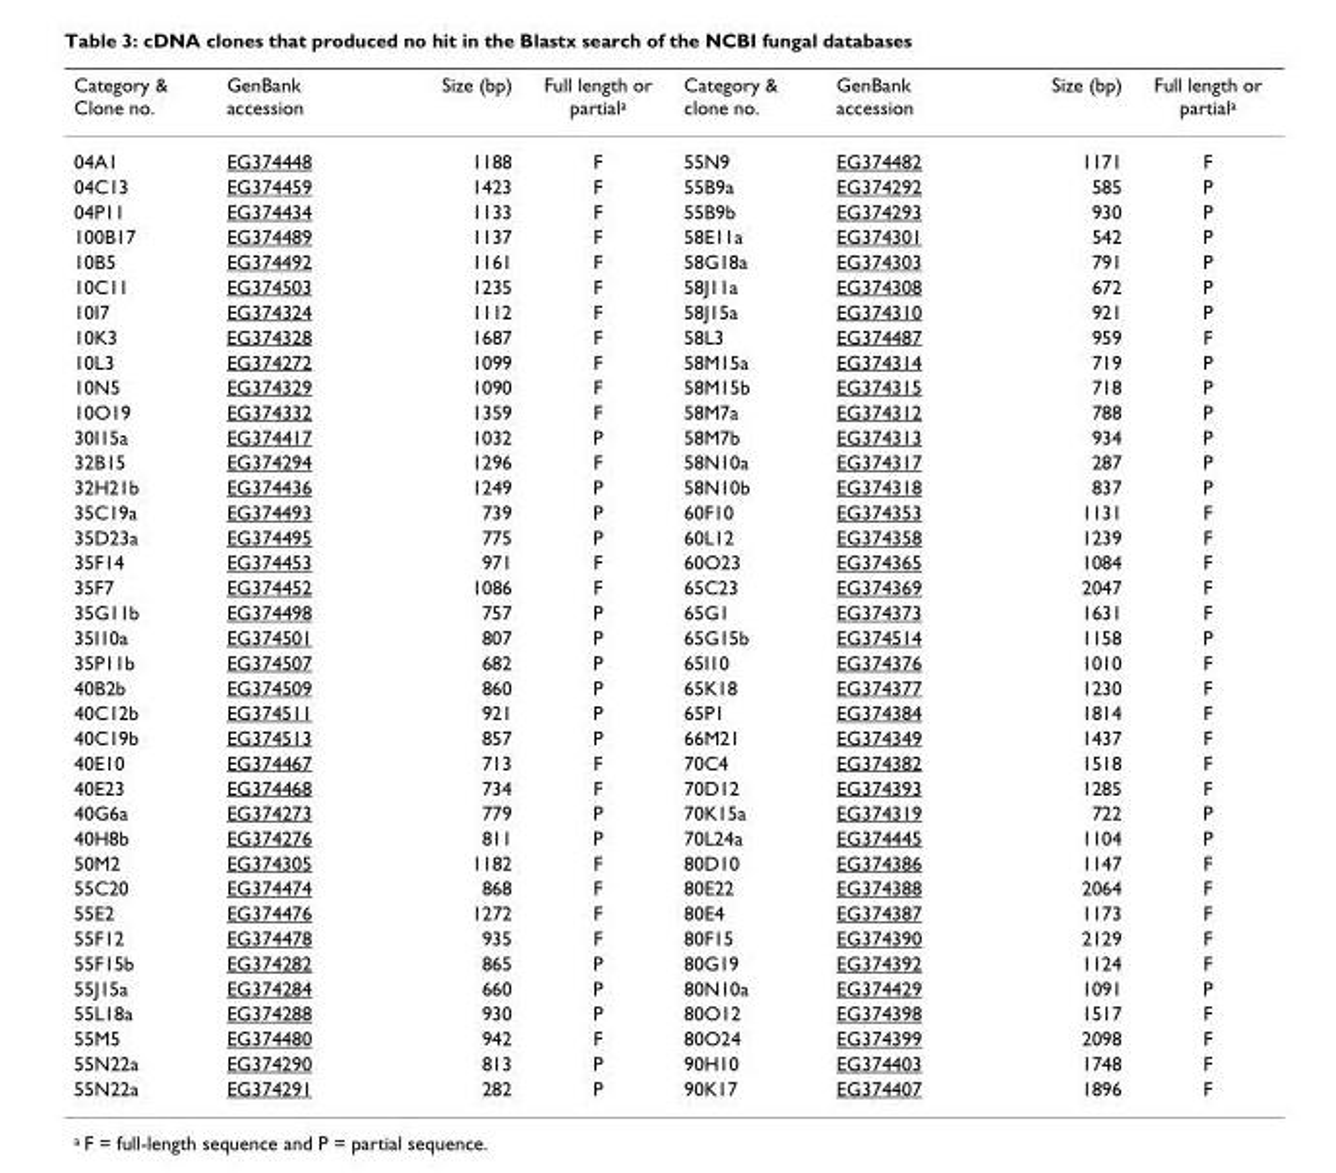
<table><thead><tr><td>Category &amp; Clone no.</td><td>GenBank accession</td><td>Size (bp)</td><td>Full length or partial<sup>a</sup></td><td>Category &amp; clone no.</td><td>GenBank accession</td><td>Size (bp)</td><td>Full length or partial<sup>a</sup></td></tr></thead><tbody><tr><td>04A1</td><td>EG374448</td><td>1188</td><td>F</td><td>55N9</td><td>EG374482</td><td>1171</td><td>F</td></tr><tr><td>04C13</td><td>EG374459</td><td>1423</td><td>F</td><td>55B9a</td><td>EG374292</td><td>585</td><td>P</td></tr><tr><td>04P11</td><td>EG374434</td><td>1133</td><td>F</td><td>55B9b</td><td>EG374293</td><td>930</td><td>P</td></tr><tr><td>100B17</td><td>EG374489</td><td>1137</td><td>F</td><td>58E11a</td><td>EG374301</td><td>542</td><td>P</td></tr><tr><td>10B5</td><td>EG374492</td><td>1161</td><td>F</td><td>58G18a</td><td>EG374303</td><td>791</td><td>P</td></tr><tr><td>10C11</td><td>EG374503</td><td>1235</td><td>F</td><td>58J11a</td><td>EG374308</td><td>672</td><td>P</td></tr><tr><td>10I7</td><td>EG374324</td><td>1112</td><td>F</td><td>58J15a</td><td>EG374310</td><td>921</td><td>P</td></tr><tr><td>10K3</td><td>EG374328</td><td>1687</td><td>F</td><td>58L3</td><td>EG374487</td><td>959</td><td>F</td></tr><tr><td>10L3</td><td>EG374272</td><td>1099</td><td>F</td><td>58M15a</td><td>EG374314</td><td>719</td><td>P</td></tr><tr><td>10N5</td><td>EG374329</td><td>1090</td><td>F</td><td>58M15b</td><td>EG374315</td><td>718</td><td>P</td></tr><tr><td>10O19</td><td>EG374332</td><td>1359</td><td>F</td><td>58M7a</td><td>EG374312</td><td>788</td><td>P</td></tr><tr><td>30I15a</td><td>EG374417</td><td>1032</td><td>P</td><td>58M7b</td><td>EG374313</td><td>934</td><td>P</td></tr><tr><td>32B15</td><td>EG374294</td><td>1296</td><td>F</td><td>58N10a</td><td>EG374317</td><td>287</td><td>P</td></tr><tr><td>32H21b</td><td>EG374436</td><td>1249</td><td>P</td><td>58N10b</td><td>EG374318</td><td>837</td><td>P</td></tr><tr><td>35C19a</td><td>EG374493</td><td>739</td><td>P</td><td>60F10</td><td>EG374353</td><td>1131</td><td>F</td></tr><tr><td>35D23a</td><td>EG374495</td><td>775</td><td>P</td><td>60L12</td><td>EG374358</td><td>1239</td><td>F</td></tr><tr><td>35F14</td><td>EG374453</td><td>971</td><td>F</td><td>60O23</td><td>EG374365</td><td>1084</td><td>F</td></tr><tr><td>35F7</td><td>EG374452</td><td>1086</td><td>F</td><td>65C23</td><td>EG374369</td><td>2047</td><td>F</td></tr><tr><td>35G11b</td><td>EG374498</td><td>757</td><td>P</td><td>65G1</td><td>EG374373</td><td>1631</td><td>F</td></tr><tr><td>35I10a</td><td>EG374501</td><td>807</td><td>P</td><td>65G15b</td><td>EG374514</td><td>1158</td><td>P</td></tr><tr><td>35P11b</td><td>EG374507</td><td>682</td><td>P</td><td>65I10</td><td>EG374376</td><td>1010</td><td>F</td></tr><tr><td>40B2b</td><td>EG374509</td><td>860</td><td>P</td><td>65K18</td><td>EG374377</td><td>1230</td><td>F</td></tr><tr><td>40C12b</td><td>EG374511</td><td>921</td><td>P</td><td>65P1</td><td>EG374384</td><td>1814</td><td>F</td></tr><tr><td>40C19b</td><td>EG374513</td><td>857</td><td>P</td><td>66M21</td><td>EG374349</td><td>1437</td><td>F</td></tr><tr><td>40E10</td><td>EG374467</td><td>713</td><td>F</td><td>70C4</td><td>EG374382</td><td>1518</td><td>F</td></tr><tr><td>40E23</td><td>EG374468</td><td>734</td><td>F</td><td>70D12</td><td>EG374393</td><td>1285</td><td>F</td></tr><tr><td>40G6a</td><td>EG374273</td><td>779</td><td>P</td><td>70K15a</td><td>EG374319</td><td>722</td><td>P</td></tr><tr><td>40H8b</td><td>EG374276</td><td>811</td><td>P</td><td>70L24a</td><td>EG374445</td><td>1104</td><td>P</td></tr><tr><td>50M2</td><td>EG374305</td><td>1182</td><td>F</td><td>80D10</td><td>EG374386</td><td>1147</td><td>F</td></tr><tr><td>55C20</td><td>EG374474</td><td>868</td><td>F</td><td>80E22</td><td>EG374388</td><td>2064</td><td>F</td></tr><tr><td>55E2</td><td>EG374476</td><td>1272</td><td>F</td><td>80E4</td><td>EG374387</td><td>1173</td><td>F</td></tr><tr><td>55F12</td><td>EG374478</td><td>935</td><td>F</td><td>80F15</td><td>EG374390</td><td>2129</td><td>F</td></tr><tr><td>55F15b</td><td>EG374282</td><td>865</td><td>P</td><td>80G19</td><td>EG374392</td><td>1124</td><td>F</td></tr><tr><td>55J15a</td><td>EG374284</td><td>660</td><td>P</td><td>80N10a</td><td>EG374429</td><td>1091</td><td>P</td></tr><tr><td>55L18a</td><td>EG374288</td><td>930</td><td>P</td><td>80O12</td><td>EG374398</td><td>1517</td><td>F</td></tr><tr><td>55M5</td><td>EG374480</td><td>942</td><td>F</td><td>80O24</td><td>EG374399</td><td>2098</td><td>F</td></tr><tr><td>55N22a</td><td>EG374290</td><td>813</td><td>P</td><td>90H10</td><td>EG374403</td><td>1748</td><td>F</td></tr><tr><td>55N22a</td><td>EG374291</td><td>282</td><td>P</td><td>90K17</td><td>EG374407</td><td>1896</td><td>F</td></tr></tbody></table>